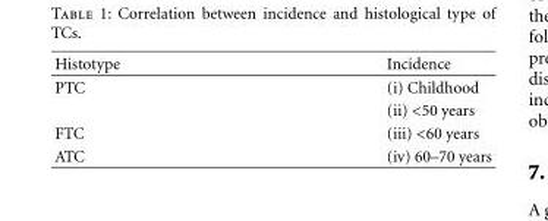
<table><thead><tr><td>Histotype</td><td>Incidence</td></tr></thead><tbody><tr><td rowspan="2">PTC</td><td>(i) Childhood</td></tr><tr><td>(ii) &lt;50 years</td></tr><tr><td>FTC</td><td>(iii) &lt;60 years</td></tr><tr><td>ATC</td><td>(iv) 60–70 years</td></tr></tbody></table>